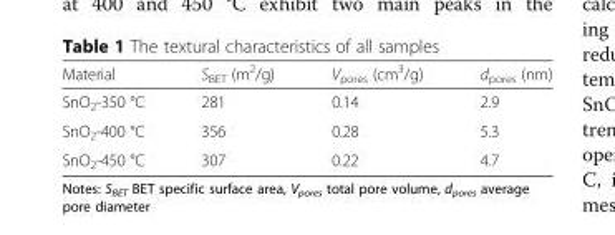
<table><thead><tr><td>Material</td><td>S<sub>BET</sub> (m<sup>2</sup>/g)</td><td>V<sub>pores</sub> (cm<sup>3</sup>/g)</td><td>d<sub>pores</sub> (nm)</td></tr></thead><tbody><tr><td>SnO<sub>2</sub>-350 °C</td><td>281</td><td>0.14</td><td>2.9</td></tr><tr><td>SnO<sub>2</sub>-400 °C</td><td>356</td><td>0.28</td><td>5.3</td></tr><tr><td>SnO<sub>2</sub>-450 °C</td><td>307</td><td>0.22</td><td>4.7</td></tr></tbody></table>